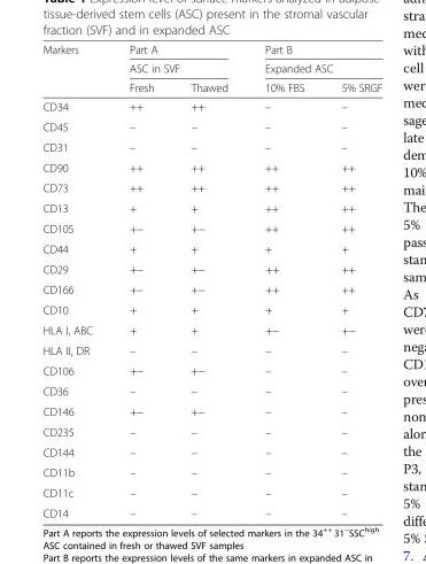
<table><thead><tr><td rowspan="3">Markers</td><td rowspan="2" colspan="2">Part A ASC in SVF</td><td rowspan="2" colspan="2">Part B Expanded ASC</td></tr><tr></tr><tr><td>Fresh</td><td>Thawed</td><td>10% FBS</td><td>5% SRGF</td></tr></thead><tbody><tr><td>CD34</td><td>++</td><td>++</td><td>–</td><td>–</td></tr><tr><td>CD45</td><td>–</td><td>–</td><td>–</td><td>–</td></tr><tr><td>CD31</td><td>–</td><td>–</td><td>–</td><td>–</td></tr><tr><td>CD90</td><td>++</td><td>++</td><td>++</td><td>++</td></tr><tr><td>CD73</td><td>++</td><td>++</td><td>++</td><td>++</td></tr><tr><td>CD13</td><td>+</td><td>+</td><td>++</td><td>++</td></tr><tr><td>CD105</td><td>+−</td><td>+−</td><td>++</td><td>++</td></tr><tr><td>CD44</td><td>+</td><td>+</td><td>+</td><td>+</td></tr><tr><td>CD29</td><td>+−</td><td>+−</td><td>++</td><td>++</td></tr><tr><td>CD166</td><td>+−</td><td>+−</td><td>++</td><td>++</td></tr><tr><td>CD10</td><td>+</td><td>+</td><td>+</td><td>+</td></tr><tr><td>HLA I, ABC</td><td>+</td><td>+</td><td>+−</td><td>+−</td></tr><tr><td>HLA II, DR</td><td>–</td><td>–</td><td>–</td><td>–</td></tr><tr><td>CD106</td><td>+−</td><td>+−</td><td>–</td><td>–</td></tr><tr><td>CD36</td><td>–</td><td>–</td><td>–</td><td>–</td></tr><tr><td>CD146</td><td>+−</td><td>+−</td><td>–</td><td>–</td></tr><tr><td>CD235</td><td>–</td><td>–</td><td>–</td><td>–</td></tr><tr><td>CD144</td><td>–</td><td>–</td><td>–</td><td>–</td></tr><tr><td>CD11b</td><td>–</td><td>–</td><td>–</td><td>–</td></tr><tr><td>CD11c</td><td>–</td><td>–</td><td>–</td><td>–</td></tr><tr><td>CD14</td><td>–</td><td>–</td><td>–</td><td>–</td></tr></tbody></table>